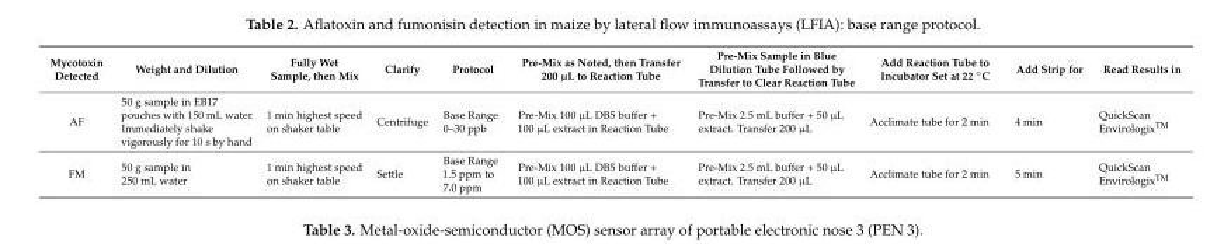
<table><thead><tr><td>Mycotoxin Detected</td><td>Weight and Dilution</td><td>Fully Wet Sample, then Mix</td><td>Clarify</td><td>Protocol</td><td>Pre-Mix as Noted, then Transfer 200 µL to Reaction Tube</td><td>Pre-Mix Sample in Blue Dilution Tube Followed by Transfer to Clear Reaction Tube</td><td>Add Reaction Tube to Incubator Set at 22 ◦C</td><td>Add Strip for</td><td>Read Results in</td></tr></thead><tbody><tr><td>AF</td><td>50 g sample in EB17 pouches with 150 mL water. Immediately shake vigorously for 10 s by hand</td><td>1 min highest speed on shaker table</td><td>Centrifuge</td><td>Base Range 0–30 ppb</td><td>Pre-Mix 100 µL DB5 buffer + 100 µL extract in Reaction Tube</td><td>Pre-Mix 2.5 mL buffer + 50 µL extract. Transfer 200 µL</td><td>Acclimate tube for 2 min</td><td>4 min</td><td>QuickScan Envirologix<sup>TM</sup></td></tr><tr><td>FM</td><td>50 g sample in 250 mL water</td><td>1 min highest speed on shaker table</td><td>Settle</td><td>Base Range 1.5 ppm to 7.0 ppm</td><td>Pre-Mix 100 µL DB5 buffer + 100 µL extract in Reaction Tube</td><td>Pre-Mix 2.5 mL buffer + 50 µL extract. Transfer 200 µL</td><td>Acclimate tube for 2 min</td><td>5 min</td><td>QuickScan Envirologix<sup>TM</sup></td></tr></tbody></table>